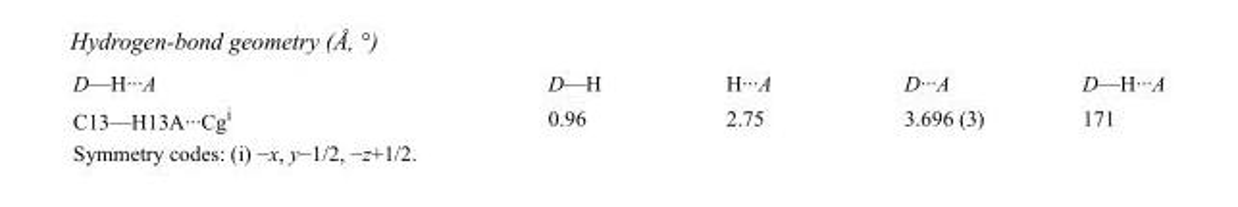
<table><tbody><tr><td>D—H···A</td><td>D—H</td><td>H···A</td><td>D···A</td><td>D—H···A</td></tr><tr><td>C13—H13A···Cg<sup>i</sup></td><td>0.96</td><td>2.75</td><td>3.696 (3)</td><td>171</td></tr></tbody></table>